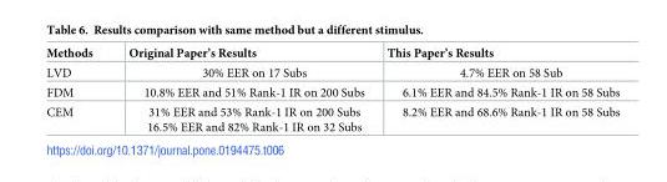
<table><thead><tr><td>Methods</td><td>Original Paper’s Results</td><td>This Paper’s Results</td></tr></thead><tbody><tr><td>LVD</td><td>30% EER on 17 Subs</td><td>4.7% EER on 58 Sub</td></tr><tr><td>FDM</td><td>10.8% EER and 51% Rank-1 IR on 200 Subs</td><td>6.1% EER and 84.5% Rank-1 IR on 58 Subs</td></tr><tr><td>CEM</td><td>31% EER and 53% Rank-1 IR on 200 Subs 16.5% EER and 82% Rank-1 IR on 32 Subs</td><td>8.2% EER and 68.6% Rank-1 IR on 58 Subs</td></tr></tbody></table>